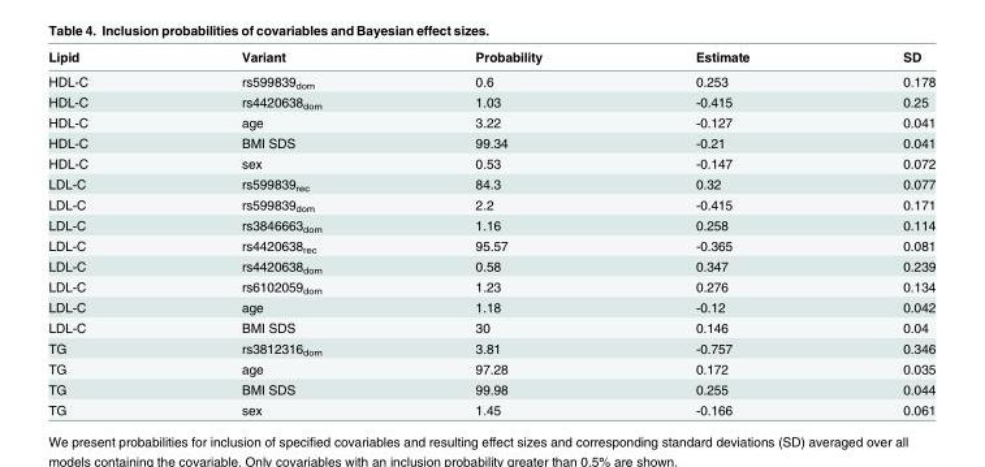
<table><thead><tr><td>Lipid</td><td>Variant</td><td>Probability</td><td>Estimate</td><td>SD</td></tr></thead><tbody><tr><td>HDL-C</td><td>rs599839<sub>dom</sub></td><td>0.6</td><td>0.253</td><td>0.178</td></tr><tr><td>HDL-C</td><td>rs4420638<sub>dom</sub></td><td>1.03</td><td>-0.415</td><td>0.25</td></tr><tr><td>HDL-C</td><td>age</td><td>3.22</td><td>-0.127</td><td>0.041</td></tr><tr><td>HDL-C</td><td>BMI SDS</td><td>99.34</td><td>-0.21</td><td>0.041</td></tr><tr><td>HDL-C</td><td>sex</td><td>0.53</td><td>-0.147</td><td>0.072</td></tr><tr><td>LDL-C</td><td>rs599839<sub>rec</sub></td><td>84.3</td><td>0.32</td><td>0.077</td></tr><tr><td>LDL-C</td><td>rs599839<sub>dom</sub></td><td>2.2</td><td>-0.415</td><td>0.171</td></tr><tr><td>LDL-C</td><td>rs3846663<sub>dom</sub></td><td>1.16</td><td>0.258</td><td>0.114</td></tr><tr><td>LDL-C</td><td>rs4420638<sub>rec</sub></td><td>95.57</td><td>-0.365</td><td>0.081</td></tr><tr><td>LDL-C</td><td>rs4420638<sub>dom</sub></td><td>0.58</td><td>0.347</td><td>0.239</td></tr><tr><td>LDL-C</td><td>rs6102059<sub>dom</sub></td><td>1.23</td><td>0.276</td><td>0.134</td></tr><tr><td>LDL-C</td><td>age</td><td>1.18</td><td>-0.12</td><td>0.042</td></tr><tr><td>LDL-C</td><td>BMI SDS</td><td>30</td><td>0.146</td><td>0.04</td></tr><tr><td>TG</td><td>rs3812316<sub>dom</sub></td><td>3.81</td><td>-0.757</td><td>0.346</td></tr><tr><td>TG</td><td>age</td><td>97.28</td><td>0.172</td><td>0.035</td></tr><tr><td>TG</td><td>BMI SDS</td><td>99.98</td><td>0.255</td><td>0.044</td></tr><tr><td>TG</td><td>sex</td><td>1.45</td><td>-0.166</td><td>0.061</td></tr></tbody></table>